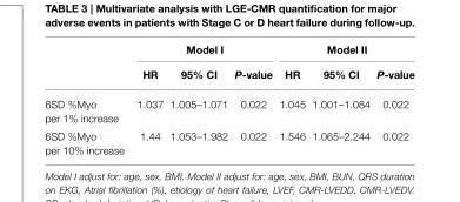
<table><thead><tr><td rowspan="2"></td><td colspan="3">Model I</td><td colspan="3">Model II</td></tr><tr><td>HR</td><td>95% CI</td><td>P-value</td><td>HR</td><td>95% CI</td><td>P-value</td></tr></thead><tbody><tr><td>6SD %Myo per 1% increase</td><td>1.037</td><td>1.005–1.071</td><td>0.022</td><td>1.045</td><td>1.001–1.084</td><td>0.022</td></tr><tr><td>6SD %Myo per 10% increase</td><td>1.44</td><td>1.053–1.982</td><td>0.022</td><td>1.546</td><td>1.065–2.244</td><td>0.022</td></tr></tbody></table>